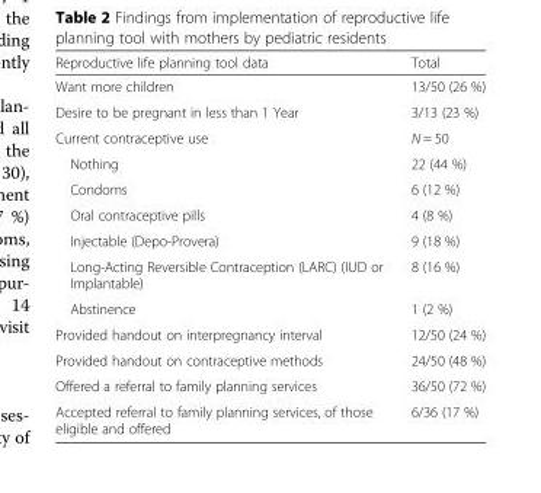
<table><thead><tr><td>Reproductive life planning tool data</td><td>Total</td></tr></thead><tbody><tr><td>Want more children</td><td>13/50 (26 %)</td></tr><tr><td>Desire to be pregnant in less than 1 Year</td><td>3/13 (23 %)</td></tr><tr><td>Current contraceptive use</td><td>N = 50</td></tr><tr><td>Nothing</td><td>22 (44 %)</td></tr><tr><td>Condoms</td><td>6 (12 %)</td></tr><tr><td>Oral contraceptive pills</td><td>4 (8 %)</td></tr><tr><td>Injectable (Depo-Provera)</td><td>9 (18 %)</td></tr><tr><td>Long-Acting Reversible Contraception (LARC) (IUD or Implantable)</td><td>8 (16 %)</td></tr><tr><td>Abstinence</td><td>1 (2 %)</td></tr><tr><td>Provided handout on interpregnancy interval</td><td>12/50 (24 %)</td></tr><tr><td>Provided handout on contraceptive methods</td><td>24/50 (48 %)</td></tr><tr><td>Offered a referral to family planning services</td><td>36/50 (72 %)</td></tr><tr><td>Accepted referral to family planning services, of those eligible and offered</td><td>6/36 (17 %)</td></tr></tbody></table>